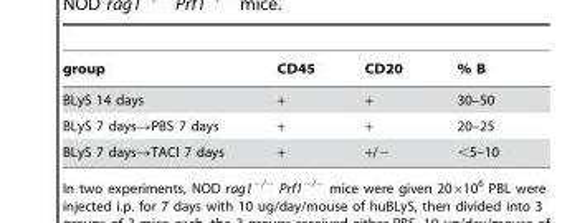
<table><thead><tr><td>group</td><td>CD45</td><td>CD20</td><td>% B</td></tr></thead><tbody><tr><td>BLyS 14 days</td><td>+</td><td>+</td><td>30–50</td></tr><tr><td>BLyS 7 days→PBS 7 days</td><td>+</td><td>+</td><td>20–25</td></tr><tr><td>BLyS 7 days→TACI 7 days</td><td>+</td><td>+/−</td><td>&lt;5–10</td></tr></tbody></table>